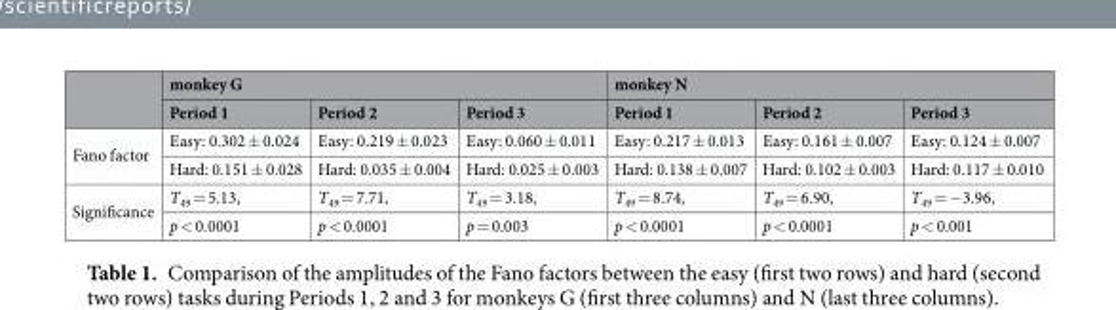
<table><thead><tr><td rowspan="2"></td><td colspan="3">monkey G</td><td colspan="3">monkey N</td></tr><tr><td>Period 1</td><td>Period 2</td><td>Period 3</td><td>Period 1</td><td>Period 2</td><td>Period 3</td></tr></thead><tbody><tr><td rowspan="2">Fano factor</td><td>Easy: 0.302 ± 0.024</td><td>Easy: 0.219 ± 0.023</td><td>Easy: 0.060 ± 0.011</td><td>Easy: 0.217 ± 0.013</td><td>Easy: 0.161 ± 0.007</td><td>Easy: 0.124 ± 0.007</td></tr><tr><td>Hard: 0.151 ± 0.028</td><td>Hard: 0.035 ± 0.004</td><td>Hard: 0.025 ± 0.003</td><td>Hard: 0.138 ± 0.007</td><td>Hard: 0.102 ± 0.003</td><td>Hard: 0.117 ± 0.010</td></tr><tr><td rowspan="2">Significance</td><td>T<sub>49</sub> = 5.13,</td><td>T<sub>49</sub> = 7.71,</td><td>T<sub>49</sub> = 3.18,</td><td>T<sub>49</sub> = 8.74,</td><td>T<sub>49</sub> = 6.90,</td><td>T<sub>49</sub> = −3.96,</td></tr><tr><td>p &lt; 0.0001</td><td>p &lt; 0.0001</td><td>p = 0.003</td><td>p &lt; 0.0001</td><td>p &lt; 0.0001</td><td>p &lt; 0.001</td></tr></tbody></table>